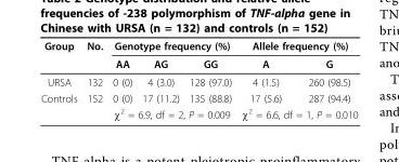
<table><thead><tr><td rowspan="2">Group</td><td rowspan="2">No.</td><td colspan="3">Genotype frequency (%)</td><td colspan="2">Allele frequency (%)</td></tr><tr><td>AA</td><td>AG</td><td>GG</td><td>A</td><td>G</td></tr></thead><tbody><tr><td>URSA</td><td>132</td><td>0 (0)</td><td>4 (3.0)</td><td>128 (97.0)</td><td>4 (1.5)</td><td>260 (98.5)</td></tr><tr><td rowspan="2">Controls</td><td>152</td><td>0 (0)</td><td>17 (11.2)</td><td>135 (88.8)</td><td>17 (5.6)</td><td>287 (94.4)</td></tr><tr><td></td><td colspan="3">χ<sup>2</sup> = 6.9, df = 2, P = 0.009</td><td colspan="2">χ<sup>2</sup> = 6.6, df = 1, P = 0.010</td></tr></tbody></table>